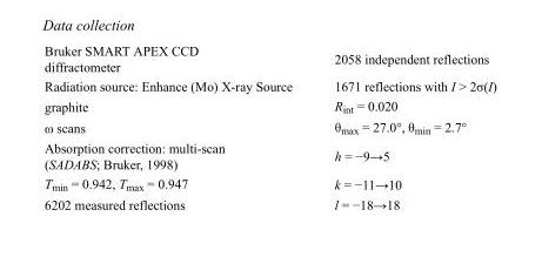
<table><tbody><tr><td>Bruker SMART APEX CCD diffractometer</td><td>2058 independent reflections</td></tr><tr><td>Radiation source: Enhance (Mo) X-ray Source</td><td>1671 reflections with I &gt; 2σ(I)</td></tr><tr><td>graphite</td><td>R<sub>int</sub> = 0.020</td></tr><tr><td>ω scans</td><td>θ<sub>max</sub> = 27.0°, θ<sub>min</sub> = 2.7°</td></tr><tr><td>Absorption correction: multi-scan (SADABS; Bruker, 1998)</td><td>h = −9→5</td></tr><tr><td>T<sub>min</sub> = 0.942, T<sub>max</sub> = 0.947</td><td>k = −11→10</td></tr><tr><td>6202 measured reflections</td><td>l = −18→18</td></tr></tbody></table>